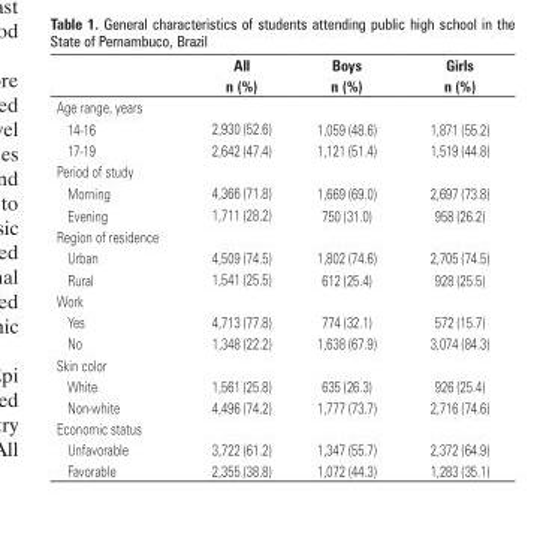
<table><thead><tr><td rowspan="2"></td><td rowspan="2">all n (%)</td><td rowspan="2">Boys n (%)</td><td rowspan="2">girls n (%)</td></tr><tr></tr></thead><tbody><tr><td colspan="4">Age range, years</td></tr><tr><td>14-16</td><td>2,930 (52.6)</td><td>1,059 (48.6)</td><td>1,871 (55.2)</td></tr><tr><td>17-19</td><td>2,642 (47.4)</td><td>1,121 (51.4)</td><td>1,519 (44.8)</td></tr><tr><td colspan="4">Period of study</td></tr><tr><td>Morning</td><td>4,366 (71.8)</td><td>1,669 (69.0)</td><td>2,697 (73.8)</td></tr><tr><td>Evening</td><td>1,711 (28.2)</td><td>750 (31.0)</td><td>958 (26.2)</td></tr><tr><td colspan="4">Region of residence</td></tr><tr><td>Urban</td><td>4,509 (74.5)</td><td>1,802 (74.6)</td><td>2,705 (74.5)</td></tr><tr><td>Rural</td><td>1,541 (25.5)</td><td>612 (25.4)</td><td>928 (25.5)</td></tr><tr><td colspan="4">Work</td></tr><tr><td>Yes</td><td>4,713 (77.8)</td><td>774 (32.1)</td><td>572 (15.7)</td></tr><tr><td>No</td><td>1,348 (22.2)</td><td>1,638 (67.9)</td><td>3,074 (84.3)</td></tr><tr><td colspan="4">Skin color</td></tr><tr><td>White</td><td>1,561 (25.8)</td><td>635 (26.3)</td><td>926 (25.4)</td></tr><tr><td>Non-white</td><td>4,496 (74.2)</td><td>1,777 (73.7)</td><td>2,716 (74.6)</td></tr><tr><td colspan="4">Economic status</td></tr><tr><td>Unfavorable</td><td>3,722 (61.2)</td><td>1,347 (55.7)</td><td>2,372 (64.9)</td></tr><tr><td>Favorable</td><td>2,355 (38.8)</td><td>1,072 (44.3)</td><td>1,283 (35.1)</td></tr></tbody></table>